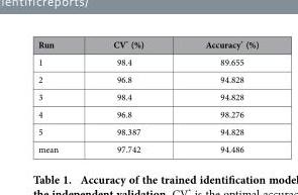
<table><thead><tr><td>Run</td><td>CV* (%)</td><td>Accuracy* (%)</td></tr></thead><tbody><tr><td>1</td><td>98.4</td><td>89.655</td></tr><tr><td>2</td><td>96.8</td><td>94.828</td></tr><tr><td>3</td><td>98.4</td><td>94.828</td></tr><tr><td>4</td><td>96.8</td><td>98.276</td></tr><tr><td>5</td><td>98.387</td><td>94.828</td></tr><tr><td>mean</td><td>97.742</td><td>94.486</td></tr></tbody></table>